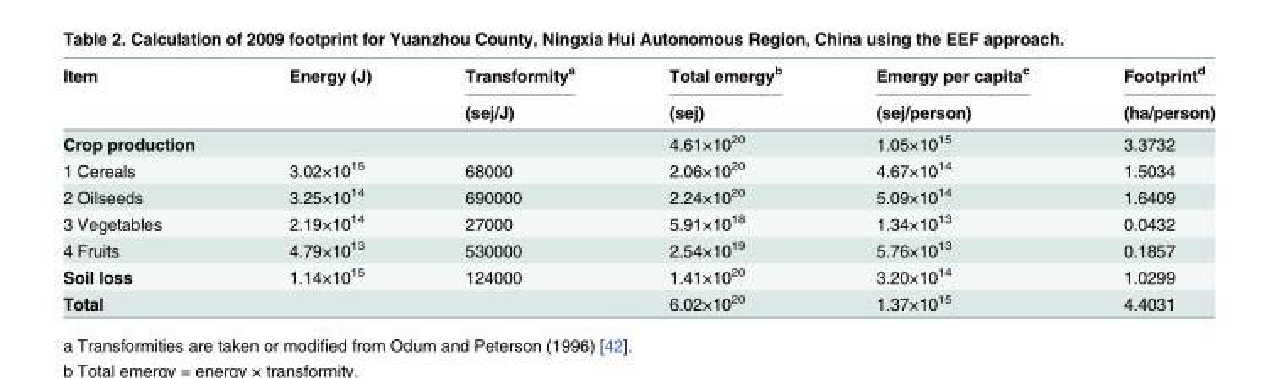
<table><thead><tr><td rowspan="2">Item</td><td rowspan="2">Energy (J)</td><td rowspan="2">Transformity<sup>a</sup> (sej/J)</td><td rowspan="2">Total emergy<sup>b</sup> (sej)</td><td rowspan="2">Emergy per capita<sup>c</sup> (sej/person)</td><td rowspan="2">Footprint<sup>d</sup> (ha/person)</td></tr><tr></tr></thead><tbody><tr><td>Crop production</td><td></td><td></td><td>4.61×10<sup>20</sup></td><td>1.05×10<sup>15</sup></td><td>3.3732</td></tr><tr><td>1 Cereals</td><td>3.02×10<sup>15</sup></td><td>68000</td><td>2.06×10<sup>20</sup></td><td>4.67×10<sup>14</sup></td><td>1.5034</td></tr><tr><td>2 Oilseeds</td><td>3.25×10<sup>14</sup></td><td>690000</td><td>2.24×10<sup>20</sup></td><td>5.09×10<sup>14</sup></td><td>1.6409</td></tr><tr><td>3 Vegetables</td><td>2.19×10<sup>14</sup></td><td>27000</td><td>5.91×10<sup>18</sup></td><td>1.34×10<sup>13</sup></td><td>0.0432</td></tr><tr><td>4 Fruits</td><td>4.79×10<sup>13</sup></td><td>530000</td><td>2.54×10<sup>19</sup></td><td>5.76×10<sup>13</sup></td><td>0.1857</td></tr><tr><td>Soil loss</td><td>1.14×10<sup>15</sup></td><td>124000</td><td>1.41×10<sup>20</sup></td><td>3.20×10<sup>14</sup></td><td>1.0299</td></tr><tr><td>Total</td><td></td><td></td><td>6.02×10<sup>20</sup></td><td>1.37×10<sup>15</sup></td><td>4.4031</td></tr></tbody></table>